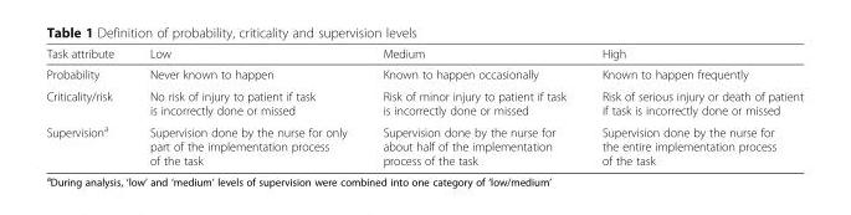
<table><thead><tr><td>Task attribute</td><td>Low</td><td>Medium</td><td>High</td></tr></thead><tbody><tr><td>Probability</td><td>Never known to happen</td><td>Known to happen occasionally</td><td>Known to happen frequently</td></tr><tr><td>Criticality/risk</td><td>No risk of injury to patient if task is incorrectly done or missed</td><td>Risk of minor injury to patient if task is incorrectly done or missed</td><td>Risk of serious injury or death of patient if task is incorrectly done or missed</td></tr><tr><td>Supervision<sup>a</sup></td><td>Supervision done by the nurse for only part of the implementation process of the task</td><td>Supervision done by the nurse for about half of the implementation process of the task</td><td>Supervision done by the nurse for the entire implementation process of the task</td></tr></tbody></table>